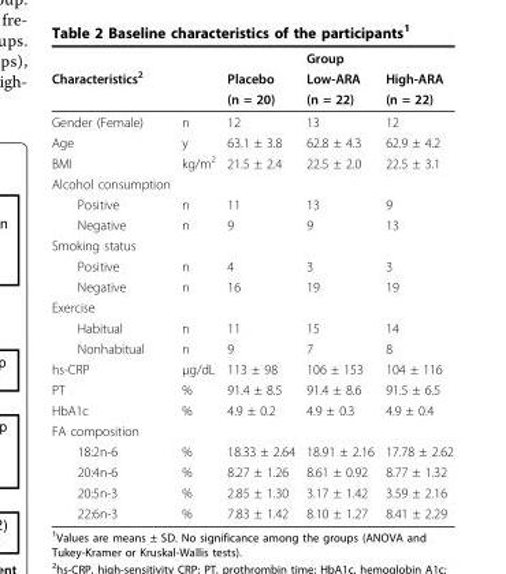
<table><thead><tr><td></td><td></td><td></td><td>Group</td><td></td></tr></thead><tbody><tr><td rowspan="2">Characteristics<sup>2</sup></td><td></td><td>Placebo</td><td>Low-ARA</td><td>High-ARA</td></tr><tr><td></td><td>(n = 20)</td><td>(n = 22)</td><td>(n = 22)</td></tr><tr><td>Gender (Female)</td><td>n</td><td>12</td><td>13</td><td>12</td></tr><tr><td>Age</td><td>y</td><td>63.1 ± 3.8</td><td>62.8 ± 4.3</td><td>62.9 ± 4.2</td></tr><tr><td>BMI</td><td>kg/m<sup>2</sup></td><td>21.5 ± 2.4</td><td>22.5 ± 2.0</td><td>22.5 ± 3.1</td></tr><tr><td colspan="5">Alcohol consumption</td></tr><tr><td>Positive</td><td>n</td><td>11</td><td>13</td><td>9</td></tr><tr><td>Negative</td><td>n</td><td>9</td><td>9</td><td>13</td></tr><tr><td colspan="5">Smoking status</td></tr><tr><td>Positive</td><td>n</td><td>4</td><td>3</td><td>3</td></tr><tr><td>Negative</td><td>n</td><td>16</td><td>19</td><td>19</td></tr><tr><td colspan="5">Exercise</td></tr><tr><td>Habitual</td><td>n</td><td>11</td><td>15</td><td>14</td></tr><tr><td>Nonhabitual</td><td>n</td><td>9</td><td>7</td><td>8</td></tr><tr><td>hs-CRP</td><td>μg/dL</td><td>113 ± 98</td><td>106 ± 153</td><td>104 ± 116</td></tr><tr><td>PT</td><td>%</td><td>91.4 ± 8.5</td><td>91.4 ± 8.6</td><td>91.5 ± 6.5</td></tr><tr><td>HbA1c</td><td>%</td><td>4.9 ± 0.2</td><td>4.9 ± 0.3</td><td>4.9 ± 0.4</td></tr><tr><td colspan="5">FA composition</td></tr><tr><td>18:2n-6</td><td>%</td><td>18.33 ± 2.64</td><td>18.91 ± 2.16</td><td>17.78 ± 2.62</td></tr><tr><td>20:4n-6</td><td>%</td><td>8.27 ± 1.26</td><td>8.61 ± 0.92</td><td>8.77 ± 1.32</td></tr><tr><td>20:5n-3</td><td>%</td><td>2.85 ± 1.30</td><td>3.17 ± 1.42</td><td>3.59 ± 2.16</td></tr><tr><td>22:6n-3</td><td>%</td><td>7.83 ± 1.42</td><td>8.10 ± 1.27</td><td>8.41 ± 2.29</td></tr></tbody></table>